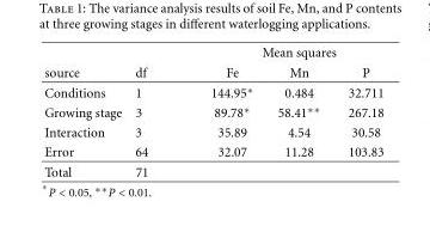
<table><thead><tr><td rowspan="2">source</td><td rowspan="2">df</td><td colspan="3">Mean squares</td></tr><tr><td>Fe</td><td>Mn</td><td>P</td></tr></thead><tbody><tr><td>Conditions</td><td>1</td><td>144.95∗</td><td>0.484</td><td>32.711</td></tr><tr><td>Growing stage</td><td>3</td><td>89.78∗</td><td>58.41∗∗</td><td>267.18</td></tr><tr><td>Interaction</td><td>3</td><td>35.89</td><td>4.54</td><td>30.58</td></tr><tr><td>Error</td><td>64</td><td>32.07</td><td>11.28</td><td>103.83</td></tr><tr><td>Total</td><td>71</td><td></td><td></td><td></td></tr></tbody></table>